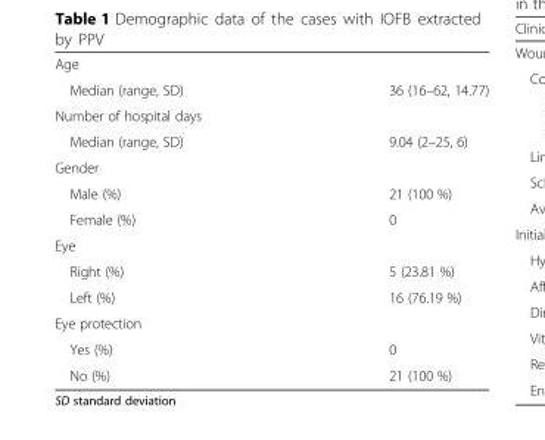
<table><tbody><tr><td colspan="2">Age</td></tr><tr><td>Median (range, SD)</td><td>36 (16–62, 14.77)</td></tr><tr><td colspan="2">Number of hospital days</td></tr><tr><td>Median (range, SD)</td><td>9.04 (2–25, 6)</td></tr><tr><td colspan="2">Gender</td></tr><tr><td>Male (%)</td><td>21 (100 %)</td></tr><tr><td>Female (%)</td><td>0</td></tr><tr><td colspan="2">Eye</td></tr><tr><td>Right (%)</td><td>5 (23.81 %)</td></tr><tr><td>Left (%)</td><td>16 (76.19 %)</td></tr><tr><td colspan="2">Eye protection</td></tr><tr><td>Yes (%)</td><td>0</td></tr><tr><td>No (%)</td><td>21 (100 %)</td></tr></tbody></table>